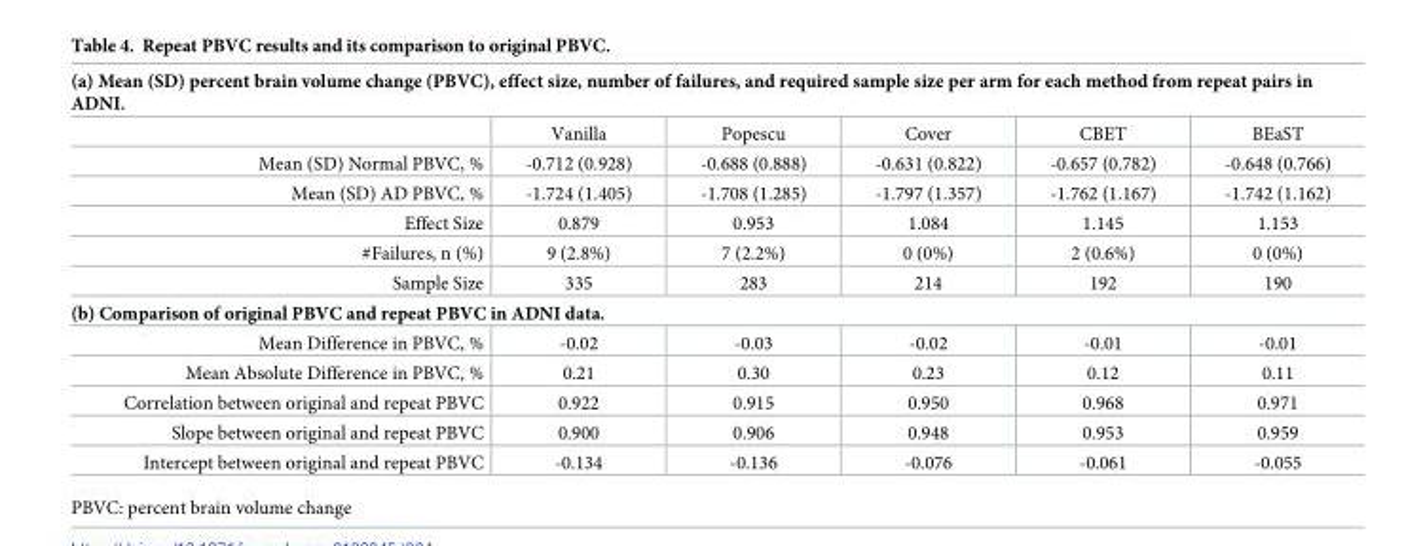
<table><tbody><tr><td colspan="6">(a) Mean (SD) percent brain volume change (PBVC), effect size, number of failures, and required sample size per arm for each method from repeat pairs in ADNI.</td></tr><tr><td></td><td>Vanilla</td><td>Popescu</td><td>Cover</td><td>CBET</td><td>BEaST</td></tr><tr><td>Mean (SD) Normal PBVC, %</td><td>-0.712 (0.928)</td><td>-0.688 (0.888)</td><td>-0.631 (0.822)</td><td>-0.657 (0.782)</td><td>-0.648 (0.766)</td></tr><tr><td>Mean (SD) AD PBVC, %</td><td>-1.724 (1.405)</td><td>-1.708 (1.285)</td><td>-1.797 (1.357)</td><td>-1.762 (1.167)</td><td>-1.742 (1.162)</td></tr><tr><td>Effect Size</td><td>0.879</td><td>0.953</td><td>1.084</td><td>1.145</td><td>1.153</td></tr><tr><td>#Failures, n (%)</td><td>9 (2.8%)</td><td>7 (2.2%)</td><td>0 (0%)</td><td>2 (0.6%)</td><td>0 (0%)</td></tr><tr><td>Sample Size</td><td>335</td><td>283</td><td>214</td><td>192</td><td>190</td></tr><tr><td colspan="6">(b) Comparison of original PBVC and repeat PBVC in ADNI data.</td></tr><tr><td>Mean Difference in PBVC, %</td><td>-0.02</td><td>-0.03</td><td>-0.02</td><td>-0.01</td><td>-0.01</td></tr><tr><td>Mean Absolute Difference in PBVC, %</td><td>0.21</td><td>0.30</td><td>0.23</td><td>0.12</td><td>0.11</td></tr><tr><td>Correlation between original and repeat PBVC</td><td>0.922</td><td>0.915</td><td>0.950</td><td>0.968</td><td>0.971</td></tr><tr><td>Slope between original and repeat PBVC</td><td>0.900</td><td>0.906</td><td>0.948</td><td>0.953</td><td>0.959</td></tr><tr><td>Intercept between original and repeat PBVC</td><td>-0.134</td><td>-0.136</td><td>-0.076</td><td>-0.061</td><td>-0.055</td></tr></tbody></table>